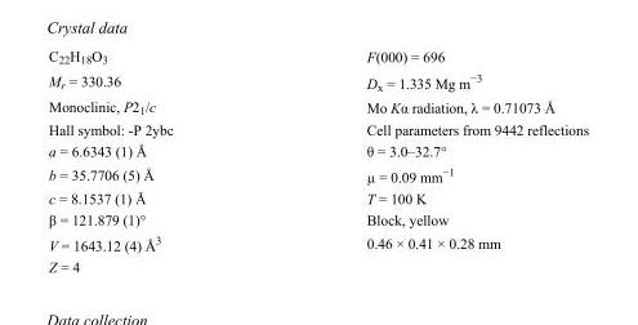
<table><tbody><tr><td>C<sub>22</sub>H<sub>18</sub>O<sub>3</sub></td><td>F(000) = 696</td></tr><tr><td>M<sub>r</sub> = 330.36</td><td>D<sub>x</sub> = 1.335 Mg m<sup>−3</sup></td></tr><tr><td>Monoclinic, P2<sub>1</sub>/c</td><td>Mo Kα radiation, λ = 0.71073 Å</td></tr><tr><td>Hall symbol: -P 2ybc</td><td>Cell parameters from 9442 reflections</td></tr><tr><td>a = 6.6343 (1) Å</td><td>θ = 3.0–32.7°</td></tr><tr><td>b = 35.7706 (5) Å</td><td>µ = 0.09 mm<sup>−1</sup></td></tr><tr><td>c = 8.1537 (1) Å</td><td>T = 100 K</td></tr><tr><td>β = 121.879 (1)°</td><td>Block, yellow</td></tr><tr><td>V = 1643.12 (4) Å<sup>3</sup></td><td>0.46 × 0.41 × 0.28 mm</td></tr><tr><td>Z = 4</td><td></td></tr></tbody></table>